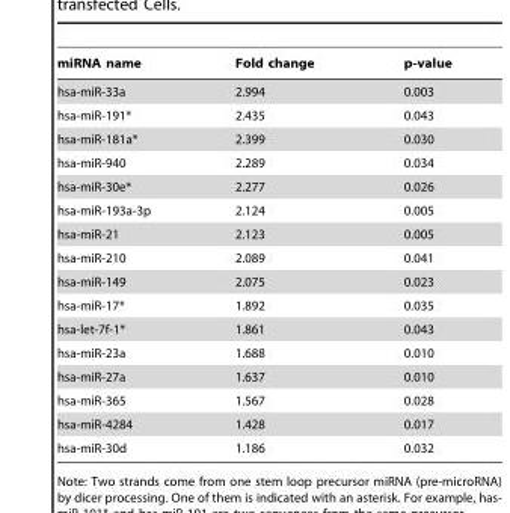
<table><thead><tr><td>miRNA name</td><td>Fold change</td><td>p-value</td></tr></thead><tbody><tr><td>hsa-miR-33a</td><td>2.994</td><td>0.003</td></tr><tr><td>hsa-miR-191*</td><td>2.435</td><td>0.043</td></tr><tr><td>hsa-miR-181a*</td><td>2.399</td><td>0.030</td></tr><tr><td>hsa-miR-940</td><td>2.289</td><td>0.034</td></tr><tr><td>hsa-miR-30e*</td><td>2.277</td><td>0.026</td></tr><tr><td>hsa-miR-193a-3p</td><td>2.124</td><td>0.005</td></tr><tr><td>hsa-miR-21</td><td>2.123</td><td>0.005</td></tr><tr><td>hsa-miR-210</td><td>2.089</td><td>0.041</td></tr><tr><td>hsa-miR-149</td><td>2.075</td><td>0.023</td></tr><tr><td>hsa-miR-17*</td><td>1.892</td><td>0.035</td></tr><tr><td>hsa-let-7f-1*</td><td>1.861</td><td>0.043</td></tr><tr><td>hsa-miR-23a</td><td>1.688</td><td>0.010</td></tr><tr><td>hsa-miR-27a</td><td>1.637</td><td>0.010</td></tr><tr><td>hsa-miR-365</td><td>1.567</td><td>0.028</td></tr><tr><td>hsa-miR-4284</td><td>1.428</td><td>0.017</td></tr><tr><td>hsa-miR-30d</td><td>1.186</td><td>0.032</td></tr></tbody></table>